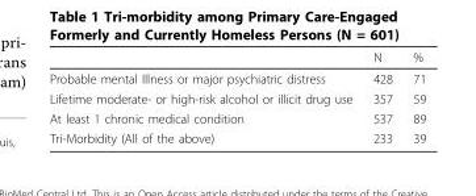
<table><thead><tr><td></td><td>N</td><td>%</td></tr></thead><tbody><tr><td>Probable mental Illness or major psychiatric distress</td><td>428</td><td>71</td></tr><tr><td>Lifetime moderate- or high-risk alcohol or illicit drug use</td><td>357</td><td>59</td></tr><tr><td>At least 1 chronic medical condition</td><td>537</td><td>89</td></tr><tr><td>Tri-Morbidity (All of the above)</td><td>233</td><td>39</td></tr></tbody></table>